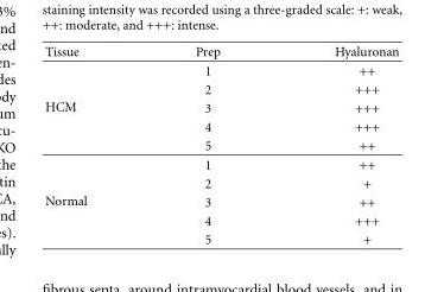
<table><thead><tr><td>Tissue</td><td>Prep</td><td>Hyaluronan</td></tr></thead><tbody><tr><td rowspan="5">HCM</td><td>1</td><td>++</td></tr><tr><td>2</td><td>+++</td></tr><tr><td>3</td><td>+++</td></tr><tr><td>4</td><td>+++</td></tr><tr><td>5</td><td>++</td></tr><tr><td rowspan="5">Normal</td><td>1</td><td>++</td></tr><tr><td>2</td><td>+</td></tr><tr><td>3</td><td>++</td></tr><tr><td>4</td><td>+++</td></tr><tr><td>5</td><td>+</td></tr></tbody></table>